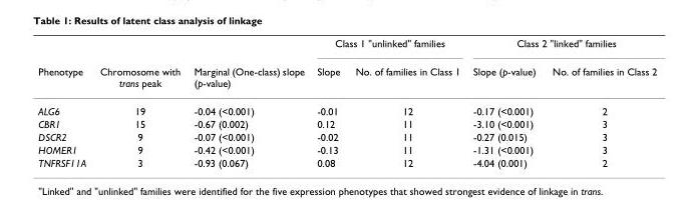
<table><thead><tr><td rowspan="2">Phenotype</td><td rowspan="2">Chromosome with trans peak</td><td rowspan="2">Marginal (One-class) slope (p-value)</td><td colspan="2">Class 1 &quot;unlinked&quot; families</td><td colspan="2">Class 2 &quot;linked&quot; families</td></tr><tr><td>Slope</td><td>No. of families in Class 1</td><td>Slope (p-value)</td><td>No. of families in Class 2</td></tr></thead><tbody><tr><td>ALG6</td><td>19</td><td>-0.04 (&lt;0.001)</td><td>-0.01</td><td>12</td><td>-0.17 (&lt;0.001)</td><td>2</td></tr><tr><td>CBR1</td><td>15</td><td>-0.67 (0.002)</td><td>0.12</td><td>11</td><td>-3.10 (&lt;0.001)</td><td>3</td></tr><tr><td>DSCR2</td><td>9</td><td>-0.07 (&lt;0.001)</td><td>-0.02</td><td>11</td><td>-0.27 (0.015)</td><td>3</td></tr><tr><td>HOMER1</td><td>9</td><td>-0.42 (&lt;0.001)</td><td>-0.13</td><td>11</td><td>-1.31 (&lt;0.001)</td><td>3</td></tr><tr><td>TNFRSF11A</td><td>3</td><td>-0.93 (0.067)</td><td>0.08</td><td>12</td><td>-4.04 (0.001)</td><td>2</td></tr></tbody></table>